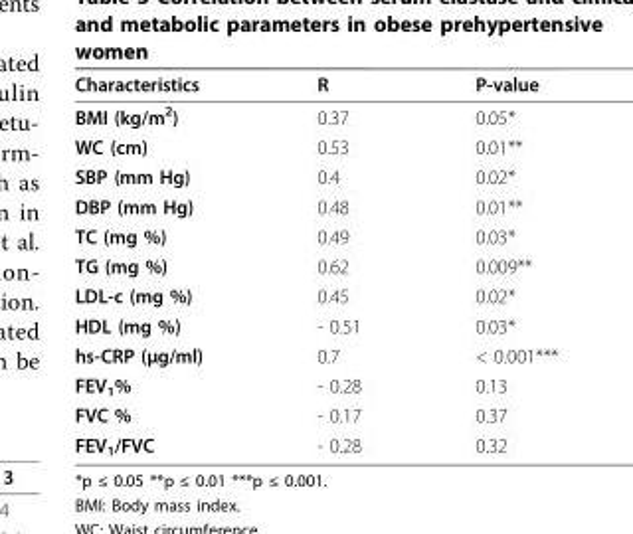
<table><thead><tr><td>Characteristics</td><td>R</td><td>P-value</td></tr></thead><tbody><tr><td>BMI (kg/m<sup>2</sup>)</td><td>0.37</td><td>0.05*</td></tr><tr><td>WC (cm)</td><td>0.53</td><td>0.01**</td></tr><tr><td>SBP (mm Hg)</td><td>0.4</td><td>0.02*</td></tr><tr><td>DBP (mm Hg)</td><td>0.48</td><td>0.01**</td></tr><tr><td>TC (mg %)</td><td>0.49</td><td>0.03*</td></tr><tr><td>TG (mg %)</td><td>0.62</td><td>0.009**</td></tr><tr><td>LDL-c (mg %)</td><td>0.45</td><td>0.02*</td></tr><tr><td>HDL (mg %)</td><td>- 0.51</td><td>0.03*</td></tr><tr><td>hs-CRP (μg/ml)</td><td>0.7</td><td>&lt; 0.001***</td></tr><tr><td>FEV<sub>1</sub>%</td><td>- 0.28</td><td>0.13</td></tr><tr><td>FVC %</td><td>- 0.17</td><td>0.37</td></tr><tr><td>FEV<sub>1</sub>/FVC</td><td>- 0.28</td><td>0.32</td></tr></tbody></table>